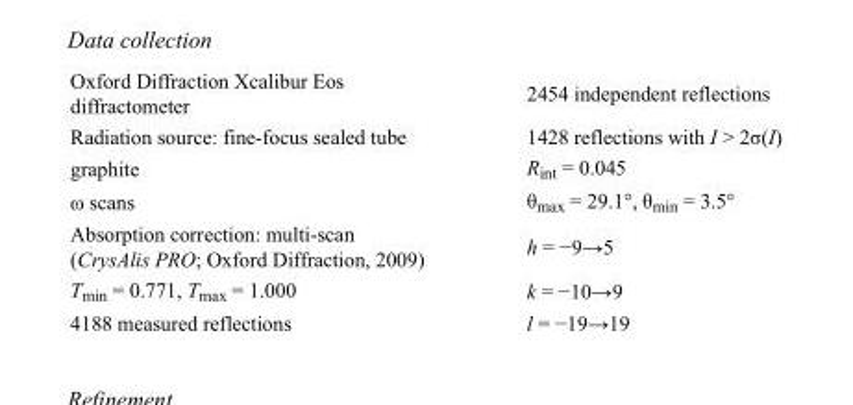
<table><tbody><tr><td>Oxford Diffraction Xcalibur Eos diffractometer</td><td>2454 independent reflections</td></tr><tr><td>Radiation source: fine-focus sealed tube</td><td>1428 reflections with I &gt; 2σ(I)</td></tr><tr><td>graphite</td><td>R<sub>int</sub> = 0.045</td></tr><tr><td>ω scans</td><td>θ<sub>max</sub> = 29.1°, θ<sub>min</sub> = 3.5°</td></tr><tr><td>Absorption correction: multi-scan (CrysAlis PRO; Oxford Diffraction, 2009)</td><td>h = −9→5</td></tr><tr><td>T<sub>min</sub> = 0.771, T<sub>max</sub> = 1.000</td><td>k = −10→9</td></tr><tr><td>4188 measured reflections</td><td>l = −19→19</td></tr></tbody></table>